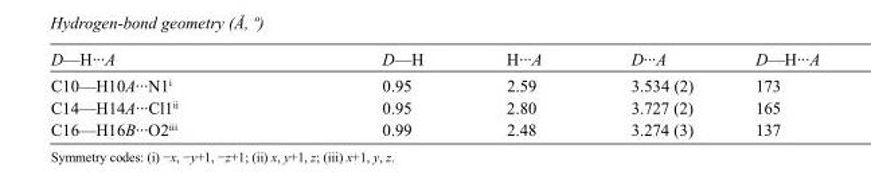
<table><tbody><tr><td>D—H···A</td><td>D—H</td><td>H···A</td><td>D···A</td><td>D—H···A</td></tr><tr><td>C10—H10A···N1<sup>i</sup></td><td>0.95</td><td>2.59</td><td>3.534 (2)</td><td>173</td></tr><tr><td>C14—H14A···Cl1<sup>ii</sup></td><td>0.95</td><td>2.80</td><td>3.727 (2)</td><td>165</td></tr><tr><td>C16—H16B···O2<sup>iii</sup></td><td>0.99</td><td>2.48</td><td>3.274 (3)</td><td>137</td></tr></tbody></table>